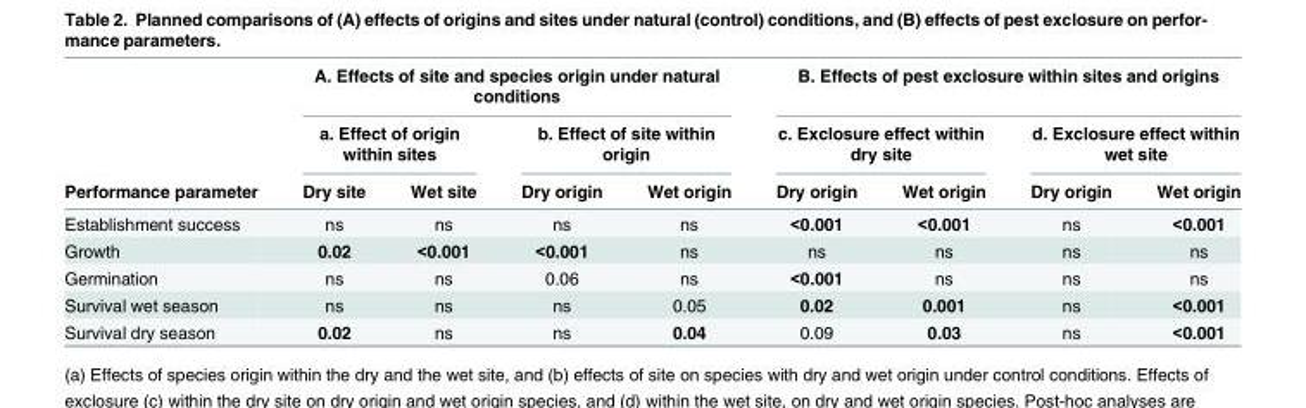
<table><thead><tr><td rowspan="3">Performance parameter</td><td colspan="4">A. Effects of site and species origin under natural conditions</td><td colspan="4">B. Effects of pest exclosure within sites and origins</td></tr><tr><td colspan="2">a. Effect of origin within sites</td><td colspan="2">b. Effect of site within origin</td><td colspan="2">c. Exclosure effect within dry site</td><td colspan="2">d. Exclosure effect within wet site</td></tr><tr><td>Dry site</td><td>Wet site</td><td>Dry origin</td><td>Wet origin</td><td>Dry origin</td><td>Wet origin</td><td>Dry origin</td><td>Wet origin</td></tr></thead><tbody><tr><td>Establishment success</td><td>ns</td><td>ns</td><td>ns</td><td>ns</td><td>&lt;0.001</td><td>&lt;0.001</td><td>ns</td><td>&lt;0.001</td></tr><tr><td>Growth</td><td>0.02</td><td>&lt;0.001</td><td>&lt;0.001</td><td>ns</td><td>ns</td><td>ns</td><td>ns</td><td>ns</td></tr><tr><td>Germination</td><td>ns</td><td>ns</td><td>0.06</td><td>ns</td><td>&lt;0.001</td><td>ns</td><td>ns</td><td>ns</td></tr><tr><td>Survival wet season</td><td>ns</td><td>ns</td><td>ns</td><td>0.05</td><td>0.02</td><td>0.001</td><td>ns</td><td>&lt;0.001</td></tr><tr><td>Survival dry season</td><td>0.02</td><td>ns</td><td>ns</td><td>0.04</td><td>0.09</td><td>0.03</td><td>ns</td><td>&lt;0.001</td></tr></tbody></table>